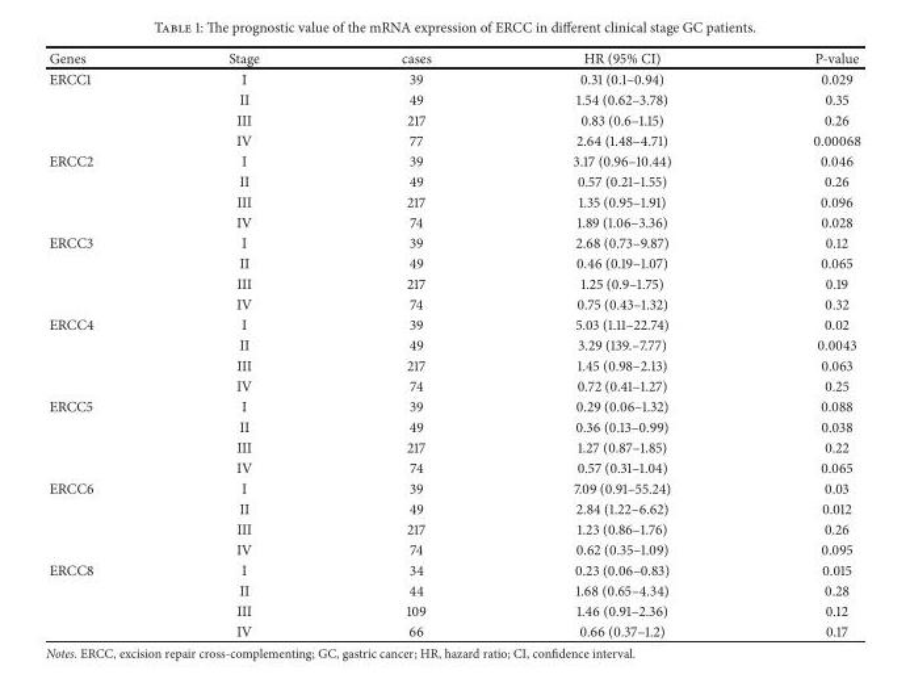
<table><thead><tr><td>Genes</td><td>Stage</td><td>cases</td><td>HR (95% CI)</td><td>P-value</td></tr></thead><tbody><tr><td rowspan="4">ERCC1</td><td>I</td><td>39</td><td>0.31 (0.1–0.94)</td><td>0.029</td></tr><tr><td>II</td><td>49</td><td>1.54 (0.62–3.78)</td><td>0.35</td></tr><tr><td>III</td><td>217</td><td>0.83 (0.6–1.15)</td><td>0.26</td></tr><tr><td>IV</td><td>77</td><td>2.64 (1.48–4.71)</td><td>0.00068</td></tr><tr><td rowspan="4">ERCC2</td><td>I</td><td>39</td><td>3.17 (0.96–10.44)</td><td>0.046</td></tr><tr><td>II</td><td>49</td><td>0.57 (0.21–1.55)</td><td>0.26</td></tr><tr><td>III</td><td>217</td><td>1.35 (0.95–1.91)</td><td>0.096</td></tr><tr><td>IV</td><td>74</td><td>1.89 (1.06–3.36)</td><td>0.028</td></tr><tr><td rowspan="4">ERCC3</td><td>I</td><td>39</td><td>2.68 (0.73–9.87)</td><td>0.12</td></tr><tr><td>II</td><td>49</td><td>0.46 (0.19–1.07)</td><td>0.065</td></tr><tr><td>III</td><td>217</td><td>1.25 (0.9–1.75)</td><td>0.19</td></tr><tr><td>IV</td><td>74</td><td>0.75 (0.43–1.32)</td><td>0.32</td></tr><tr><td rowspan="4">ERCC4</td><td>I</td><td>39</td><td>5.03 (1.11–22.74)</td><td>0.02</td></tr><tr><td>II</td><td>49</td><td>3.29 (139.–7.77)</td><td>0.0043</td></tr><tr><td>III</td><td>217</td><td>1.45 (0.98–2.13)</td><td>0.063</td></tr><tr><td>IV</td><td>74</td><td>0.72 (0.41–1.27)</td><td>0.25</td></tr><tr><td rowspan="4">ERCC5</td><td>I</td><td>39</td><td>0.29 (0.06–1.32)</td><td>0.088</td></tr><tr><td>II</td><td>49</td><td>0.36 (0.13–0.99)</td><td>0.038</td></tr><tr><td>III</td><td>217</td><td>1.27 (0.87–1.85)</td><td>0.22</td></tr><tr><td>IV</td><td>74</td><td>0.57 (0.31–1.04)</td><td>0.065</td></tr><tr><td rowspan="4">ERCC6</td><td>I</td><td>39</td><td>7.09 (0.91–55.24)</td><td>0.03</td></tr><tr><td>II</td><td>49</td><td>2.84 (1.22–6.62)</td><td>0.012</td></tr><tr><td>III</td><td>217</td><td>1.23 (0.86–1.76)</td><td>0.26</td></tr><tr><td>IV</td><td>74</td><td>0.62 (0.35–1.09)</td><td>0.095</td></tr><tr><td rowspan="4">ERCC8</td><td>I</td><td>34</td><td>0.23 (0.06–0.83)</td><td>0.015</td></tr><tr><td>II</td><td>44</td><td>1.68 (0.65–4.34)</td><td>0.28</td></tr><tr><td>III</td><td>109</td><td>1.46 (0.91–2.36)</td><td>0.12</td></tr><tr><td>IV</td><td>66</td><td>0.66 (0.37–1.2)</td><td>0.17</td></tr></tbody></table>